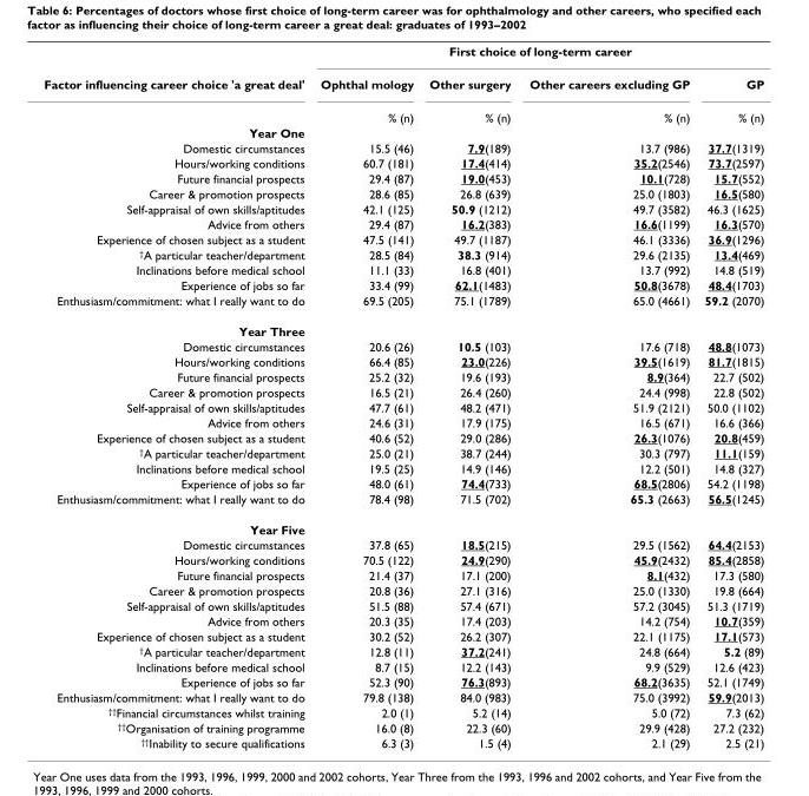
<table><thead><tr><td rowspan="2">Factor influencing career choice &#x27;a great deal&#x27;</td><td colspan="4">First choice of long-term career</td></tr><tr><td>Ophthal mology</td><td>Other surgery</td><td>Other careers excluding GP</td><td>GP</td></tr></thead><tbody><tr><td></td><td>% (n)</td><td>% (n)</td><td>% (n)</td><td>% (n)</td></tr><tr><td colspan="5">Year One</td></tr><tr><td>Domestic circumstances</td><td>15.5 (46)</td><td>7.9(189)</td><td>13.7 (986)</td><td>37.7(1319)</td></tr><tr><td>Hours/working conditions</td><td>60.7 (181)</td><td>17.4(414)</td><td>35.2(2546)</td><td>73.7(2597)</td></tr><tr><td>Future financial prospects</td><td>29.4 (87)</td><td>19.0(453)</td><td>10.1(728)</td><td>15.7(552)</td></tr><tr><td>Career &amp; promotion prospects</td><td>28.6 (85)</td><td>26.8 (639)</td><td>25.0 (1803)</td><td>16.5(580)</td></tr><tr><td>Self-appraisal of own skills/aptitudes</td><td>42.1 (125)</td><td>50.9 (1212)</td><td>49.7 (3582)</td><td>46.3 (1625)</td></tr><tr><td>Advice from others</td><td>29.4 (87)</td><td>16.2(383)</td><td>16.6(1199)</td><td>16.3(570)</td></tr><tr><td>Experience of chosen subject as a student</td><td>47.5 (141)</td><td>49.7 (1187)</td><td>46.1 (3336)</td><td>36.9(1296)</td></tr><tr><td><sup>†</sup>A particular teacher/department</td><td>28.5 (84)</td><td>38.3 (914)</td><td>29.6 (2135)</td><td>13.4(469)</td></tr><tr><td>Inclinations before medical school</td><td>11.1 (33)</td><td>16.8 (401)</td><td>13.7 (992)</td><td>14.8 (519)</td></tr><tr><td>Experience of jobs so far</td><td>33.4 (99)</td><td>62.1(1483)</td><td>50.8(3678)</td><td>48.4(1703)</td></tr><tr><td>Enthusiasm/commitment: what I really want to do</td><td>69.5 (205)</td><td>75.1 (1789)</td><td>65.0 (4661)</td><td>59.2 (2070)</td></tr><tr><td colspan="5">Year Three</td></tr><tr><td>Domestic circumstances</td><td>20.6 (26)</td><td>10.5 (103)</td><td>17.6 (718)</td><td>48.8(1073)</td></tr><tr><td>Hours/working conditions</td><td>66.4 (85)</td><td>23.0(226)</td><td>39.5(1619)</td><td>81.7(1815)</td></tr><tr><td>Future financial prospects</td><td>25.2 (32)</td><td>19.6 (193)</td><td>8.9(364)</td><td>22.7 (502)</td></tr><tr><td>Career &amp; promotion prospects</td><td>16.5 (21)</td><td>26.4 (260)</td><td>24.4 (998)</td><td>22.8 (502)</td></tr><tr><td>Self-appraisal of own skills/aptitudes</td><td>47.7 (61)</td><td>48.2 (471)</td><td>51.9 (2121)</td><td>50.0 (1102)</td></tr><tr><td>Advice from others</td><td>24.6 (31)</td><td>17.9 (175)</td><td>16.5 (671)</td><td>16.6 (366)</td></tr><tr><td>Experience of chosen subject as a student</td><td>40.6 (52)</td><td>29.0 (286)</td><td>26.3(1076)</td><td>20.8(459)</td></tr><tr><td><sup>†</sup>A particular teacher/department</td><td>25.0 (21)</td><td>38.7 (244)</td><td>30.3 (797)</td><td>11.1(159)</td></tr><tr><td>Inclinations before medical school</td><td>19.5 (25)</td><td>14.9 (146)</td><td>12.2 (501)</td><td>14.8 (327)</td></tr><tr><td>Experience of jobs so far</td><td>48.0 (61)</td><td>74.4(733)</td><td>68.5(2806)</td><td>54.2 (1198)</td></tr><tr><td>Enthusiasm/commitment: what I really want to do</td><td>78.4 (98)</td><td>71.5 (702)</td><td>65.3 (2663)</td><td>56.5(1245)</td></tr><tr><td colspan="5">Year Five</td></tr><tr><td>Domestic circumstances</td><td>37.8 (65)</td><td>18.5(215)</td><td>29.5 (1562)</td><td>64.4(2153)</td></tr><tr><td>Hours/working conditions</td><td>70.5 (122)</td><td>24.9(290)</td><td>45.9(2432)</td><td>85.4(2858)</td></tr><tr><td>Future financial prospects</td><td>21.4 (37)</td><td>17.1 (200)</td><td>8.1(432)</td><td>17.3 (580)</td></tr><tr><td>Career &amp; promotion prospects</td><td>20.8 (36)</td><td>27.1 (316)</td><td>25.0 (1330)</td><td>19.8 (664)</td></tr><tr><td>Self-appraisal of own skills/aptitudes</td><td>51.5 (88)</td><td>57.4 (671)</td><td>57.2 (3045)</td><td>51.3 (1719)</td></tr><tr><td>Advice from others</td><td>20.3 (35)</td><td>17.4 (203)</td><td>14.2 (754)</td><td>10.7(359)</td></tr><tr><td>Experience of chosen subject as a student</td><td>30.2 (52)</td><td>26.2 (307)</td><td>22.1 (1175)</td><td>17.1(573)</td></tr><tr><td><sup>†</sup>A particular teacher/department</td><td>12.8 (11)</td><td>37.2(241)</td><td>24.8 (664)</td><td>5.2 (89)</td></tr><tr><td>Inclinations before medical school</td><td>8.7 (15)</td><td>12.2 (143)</td><td>9.9 (529)</td><td>12.6 (423)</td></tr><tr><td>Experience of jobs so far</td><td>52.3 (90)</td><td>76.3(893)</td><td>68.2(3635)</td><td>52.1 (1749)</td></tr><tr><td>Enthusiasm/commitment: what I really want to do</td><td>79.8 (138)</td><td>84.0 (983)</td><td>75.0 (3992)</td><td>59.9(2013)</td></tr><tr><td><sup>††</sup>Financial circumstances whilst training</td><td>2.0 (1)</td><td>5.2 (14)</td><td>5.0 (72)</td><td>7.3 (62)</td></tr><tr><td><sup>††</sup>Organisation of training programme</td><td>16.0 (8)</td><td>22.3 (60)</td><td>29.9 (428)</td><td>27.2 (232)</td></tr><tr><td><sup>††</sup>Inability to secure qualifications</td><td>6.3 (3)</td><td>1.5 (4)</td><td>2.1 (29)</td><td>2.5 (21)</td></tr></tbody></table>